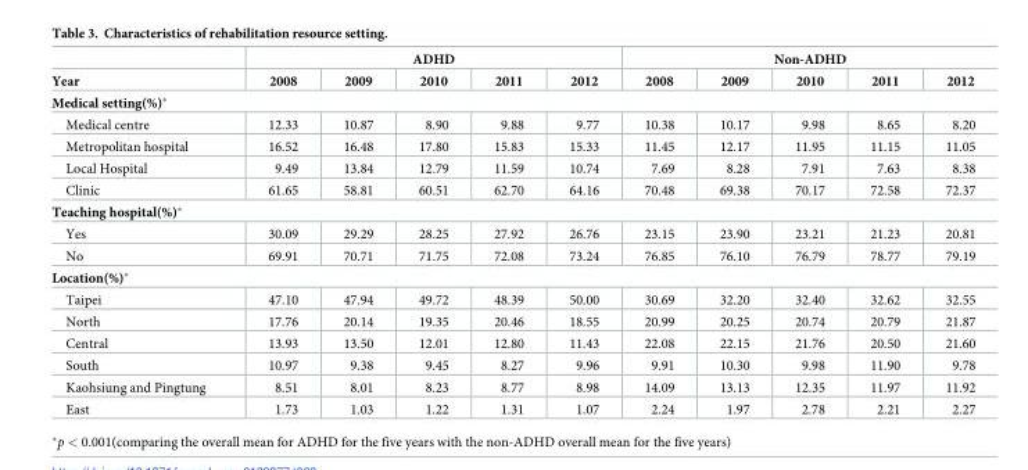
<table><thead><tr><td rowspan="2">Year</td><td colspan="5">ADHD</td><td colspan="5">Non-ADHD</td></tr><tr><td>2008</td><td>2009</td><td>2010</td><td>2011</td><td>2012</td><td>2008</td><td>2009</td><td>2010</td><td>2011</td><td>2012</td></tr></thead><tbody><tr><td colspan="11">Medical setting(%)*</td></tr><tr><td>Medical centre</td><td>12.33</td><td>10.87</td><td>8.90</td><td>9.88</td><td>9.77</td><td>10.38</td><td>10.17</td><td>9.98</td><td>8.65</td><td>8.20</td></tr><tr><td>Metropolitan hospital</td><td>16.52</td><td>16.48</td><td>17.80</td><td>15.83</td><td>15.33</td><td>11.45</td><td>12.17</td><td>11.95</td><td>11.15</td><td>11.05</td></tr><tr><td>Local Hospital</td><td>9.49</td><td>13.84</td><td>12.79</td><td>11.59</td><td>10.74</td><td>7.69</td><td>8.28</td><td>7.91</td><td>7.63</td><td>8.38</td></tr><tr><td>Clinic</td><td>61.65</td><td>58.81</td><td>60.51</td><td>62.70</td><td>64.16</td><td>70.48</td><td>69.38</td><td>70.17</td><td>72.58</td><td>72.37</td></tr><tr><td colspan="11">Teaching hospital(%)*</td></tr><tr><td>Yes</td><td>30.09</td><td>29.29</td><td>28.25</td><td>27.92</td><td>26.76</td><td>23.15</td><td>23.90</td><td>23.21</td><td>21.23</td><td>20.81</td></tr><tr><td>No</td><td>69.91</td><td>70.71</td><td>71.75</td><td>72.08</td><td>73.24</td><td>76.85</td><td>76.10</td><td>76.79</td><td>78.77</td><td>79.19</td></tr><tr><td colspan="11">Location(%)*</td></tr><tr><td>Taipei</td><td>47.10</td><td>47.94</td><td>49.72</td><td>48.39</td><td>50.00</td><td>30.69</td><td>32.20</td><td>32.40</td><td>32.62</td><td>32.55</td></tr><tr><td>North</td><td>17.76</td><td>20.14</td><td>19.35</td><td>20.46</td><td>18.55</td><td>20.99</td><td>20.25</td><td>20.74</td><td>20.79</td><td>21.87</td></tr><tr><td>Central</td><td>13.93</td><td>13.50</td><td>12.01</td><td>12.80</td><td>11.43</td><td>22.08</td><td>22.15</td><td>21.76</td><td>20.50</td><td>21.60</td></tr><tr><td>South</td><td>10.97</td><td>9.38</td><td>9.45</td><td>8.27</td><td>9.96</td><td>9.91</td><td>10.30</td><td>9.98</td><td>11.90</td><td>9.78</td></tr><tr><td>Kaohsiung and Pingtung</td><td>8.51</td><td>8.01</td><td>8.23</td><td>8.77</td><td>8.98</td><td>14.09</td><td>13.13</td><td>12.35</td><td>11.97</td><td>11.92</td></tr><tr><td>East</td><td>1.73</td><td>1.03</td><td>1.22</td><td>1.31</td><td>1.07</td><td>2.24</td><td>1.97</td><td>2.78</td><td>2.21</td><td>2.27</td></tr></tbody></table>